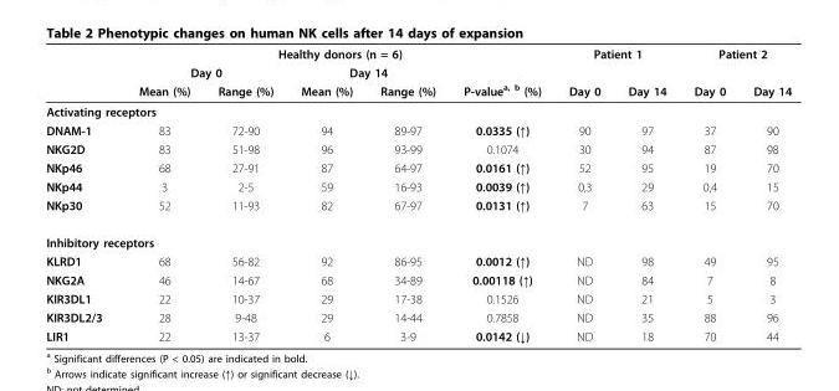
<table><thead><tr><td rowspan="3"></td><td colspan="5">Healthy donors (n = 6)</td><td colspan="2">Patient 1</td><td colspan="2">Patient 2</td></tr><tr><td colspan="2">Day 0</td><td colspan="2">Day 14</td><td rowspan="2">P-value<sup>a, b</sup> (%)</td><td rowspan="2">Day 0</td><td rowspan="2">Day 14</td><td rowspan="2">Day 0</td><td rowspan="2">Day 14</td></tr><tr><td>Mean (%)</td><td>Range (%)</td><td>Mean (%)</td><td>Range (%)</td></tr></thead><tbody><tr><td colspan="10">Activating receptors</td></tr><tr><td>DNAM-1</td><td>83</td><td>72-90</td><td>94</td><td>89-97</td><td>0.0335 (↑)</td><td>90</td><td>97</td><td>37</td><td>90</td></tr><tr><td>NKG2D</td><td>83</td><td>51-98</td><td>96</td><td>93-99</td><td>0.1074</td><td>30</td><td>94</td><td>87</td><td>98</td></tr><tr><td>NKp46</td><td>68</td><td>27-91</td><td>87</td><td>64-97</td><td>0.0161 (↑)</td><td>52</td><td>95</td><td>19</td><td>70</td></tr><tr><td>NKp44</td><td>3</td><td>2-5</td><td>59</td><td>16-93</td><td>0.0039 (↑)</td><td>0,3</td><td>29</td><td>0,4</td><td>15</td></tr><tr><td>NKp30</td><td>52</td><td>11-93</td><td>82</td><td>67-97</td><td>0.0131 (↑)</td><td>7</td><td>63</td><td>15</td><td>70</td></tr><tr><td colspan="10">Inhibitory receptors</td></tr><tr><td>KLRD1</td><td>68</td><td>56-82</td><td>92</td><td>86-95</td><td>0.0012 (↑)</td><td>ND</td><td>98</td><td>49</td><td>95</td></tr><tr><td>NKG2A</td><td>46</td><td>14-67</td><td>68</td><td>34-89</td><td>0.00118 (↑)</td><td>ND</td><td>84</td><td>7</td><td>8</td></tr><tr><td>KIR3DL1</td><td>22</td><td>10-37</td><td>29</td><td>17-38</td><td>0.1526</td><td>ND</td><td>21</td><td>5</td><td>3</td></tr><tr><td>KIR3DL2/3</td><td>28</td><td>9-48</td><td>29</td><td>14-44</td><td>0.7858</td><td>ND</td><td>35</td><td>88</td><td>96</td></tr><tr><td>LIR1</td><td>22</td><td>13-37</td><td>6</td><td>3-9</td><td>0.0142 (↓)</td><td>ND</td><td>18</td><td>70</td><td>44</td></tr></tbody></table>